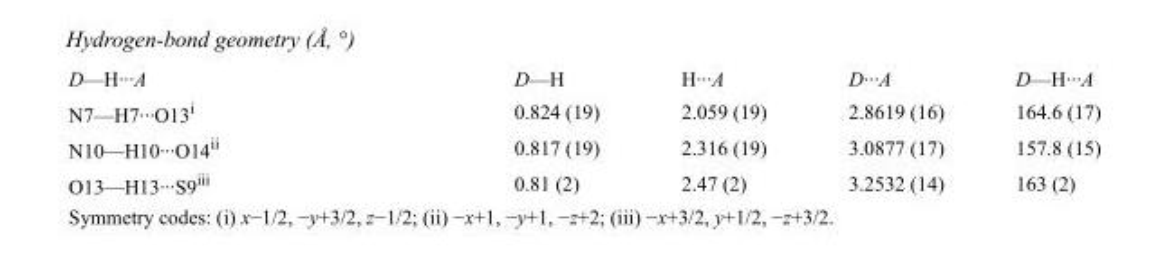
<table><tbody><tr><td>D—H···A</td><td>D—H</td><td>H···A</td><td>D···A</td><td>D—H···A</td></tr><tr><td>N7—H7···O13<sup>i</sup></td><td>0.824 (19)</td><td>2.059 (19)</td><td>2.8619 (16)</td><td>164.6 (17)</td></tr><tr><td>N10—H10···O14<sup>ii</sup></td><td>0.817 (19)</td><td>2.316 (19)</td><td>3.0877 (17)</td><td>157.8 (15)</td></tr><tr><td>O13—H13···S9<sup>iii</sup></td><td>0.81 (2)</td><td>2.47 (2)</td><td>3.2532 (14)</td><td>163 (2)</td></tr></tbody></table>